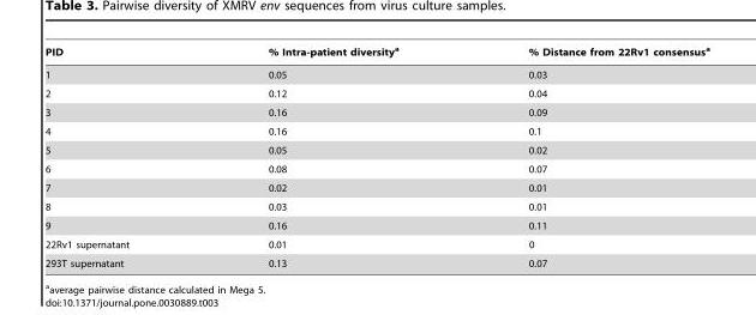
<table><thead><tr><td>PID</td><td>% Intra-patient diversity<sup>a</sup></td><td>% Distance from 22Rv1 consensus<sup>a</sup></td></tr></thead><tbody><tr><td>1</td><td>0.05</td><td>0.03</td></tr><tr><td>2</td><td>0.12</td><td>0.04</td></tr><tr><td>3</td><td>0.16</td><td>0.09</td></tr><tr><td>4</td><td>0.16</td><td>0.1</td></tr><tr><td>5</td><td>0.05</td><td>0.02</td></tr><tr><td>6</td><td>0.08</td><td>0.07</td></tr><tr><td>7</td><td>0.02</td><td>0.01</td></tr><tr><td>8</td><td>0.03</td><td>0.01</td></tr><tr><td>9</td><td>0.16</td><td>0.11</td></tr><tr><td>22Rv1 supernatant</td><td>0.01</td><td>0</td></tr><tr><td>293T supernatant</td><td>0.13</td><td>0.07</td></tr></tbody></table>